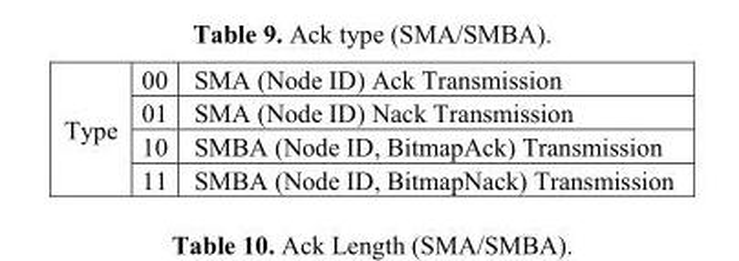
<table><tbody><tr><td rowspan="4">Type</td><td>00</td><td>SMA (Node ID) Ack Transmission</td></tr><tr><td>01</td><td>SMA (Node ID) Nack Transmission</td></tr><tr><td>10</td><td>SMBA (Node ID, BitmapAck) Transmission</td></tr><tr><td>11</td><td>SMBA (Node ID, BitmapNack) Transmission</td></tr></tbody></table>